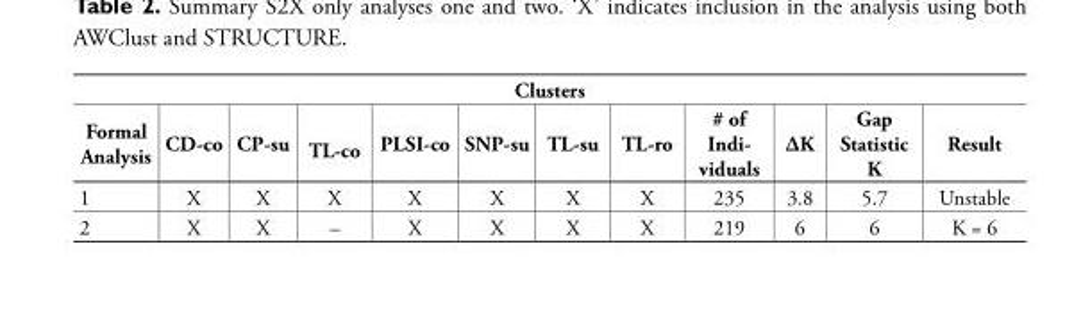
<table><thead><tr><td colspan="12">Clusters</td></tr><tr><td>Formal Analysis</td><td>CD-co</td><td>CP-su</td><td>TL-co</td><td>PLSI-co</td><td>SNP-su</td><td>TL-su</td><td>TL-ro</td><td># of Indi- viduals</td><td>ΔK</td><td>Gap Statistic K</td><td>Result</td></tr></thead><tbody><tr><td>1</td><td>X</td><td>X</td><td>X</td><td>X</td><td>X</td><td>X</td><td>X</td><td>235</td><td>3.8</td><td>5.7</td><td>Unstable</td></tr><tr><td>2</td><td>X</td><td>X</td><td>–</td><td>X</td><td>X</td><td>X</td><td>X</td><td>219</td><td>6</td><td>6</td><td>K = 6</td></tr></tbody></table>